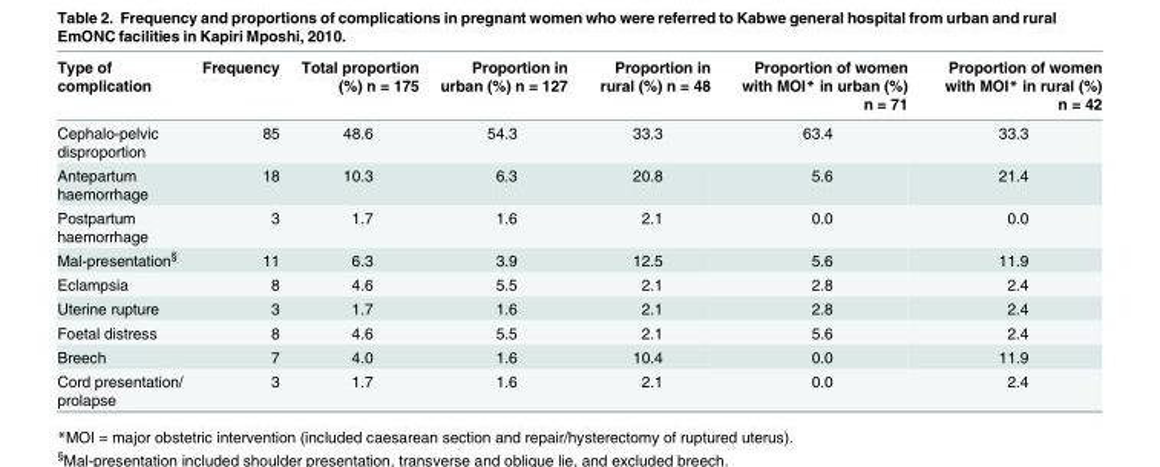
<table><thead><tr><td>Type of complication</td><td>Frequency</td><td>Total proportion (%) n = 175</td><td>Proportion in urban (%) n = 127</td><td>Proportion in rural (%) n = 48</td><td>Proportion of women with MOI* in urban (%) n = 71</td><td>Proportion of women with MOI* in rural (%) n = 42</td></tr></thead><tbody><tr><td>Cephalo-pelvic disproportion</td><td>85</td><td>48.6</td><td>54.3</td><td>33.3</td><td>63.4</td><td>33.3</td></tr><tr><td>Antepartum haemorrhage</td><td>18</td><td>10.3</td><td>6.3</td><td>20.8</td><td>5.6</td><td>21.4</td></tr><tr><td>Postpartum haemorrhage</td><td>3</td><td>1.7</td><td>1.6</td><td>2.1</td><td>0.0</td><td>0.0</td></tr><tr><td>Mal-presentation<sup>§</sup></td><td>11</td><td>6.3</td><td>3.9</td><td>12.5</td><td>5.6</td><td>11.9</td></tr><tr><td>Eclampsia</td><td>8</td><td>4.6</td><td>5.5</td><td>2.1</td><td>2.8</td><td>2.4</td></tr><tr><td>Uterine rupture</td><td>3</td><td>1.7</td><td>1.6</td><td>2.1</td><td>2.8</td><td>2.4</td></tr><tr><td>Foetal distress</td><td>8</td><td>4.6</td><td>5.5</td><td>2.1</td><td>5.6</td><td>2.4</td></tr><tr><td>Breech</td><td>7</td><td>4.0</td><td>1.6</td><td>10.4</td><td>0.0</td><td>11.9</td></tr><tr><td>Cord presentation/ prolapse</td><td>3</td><td>1.7</td><td>1.6</td><td>2.1</td><td>0.0</td><td>2.4</td></tr></tbody></table>